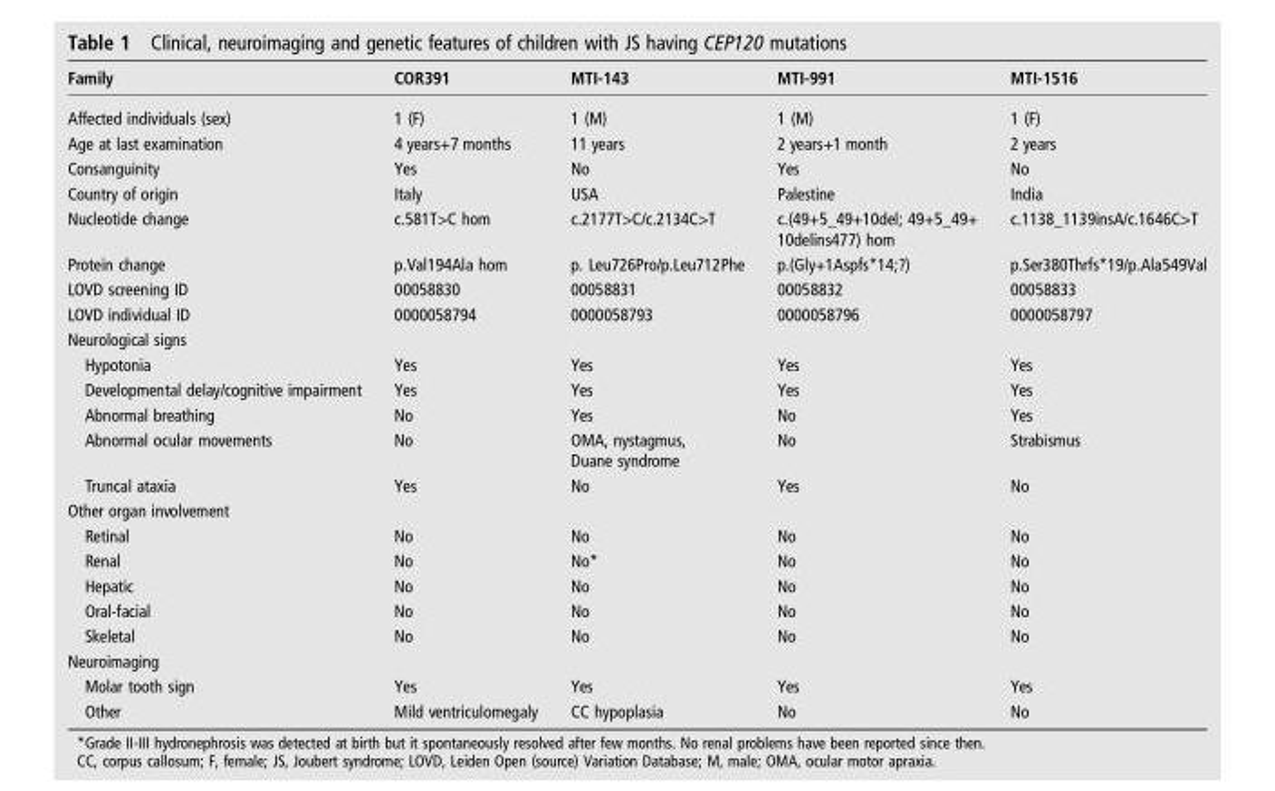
<table><thead><tr><td>Family</td><td>COR391</td><td>MTI-143</td><td>MTI-991</td><td>MTI-1516</td></tr></thead><tbody><tr><td>Affected individuals (sex)</td><td>1 (F)</td><td>1 (M)</td><td>1 (M)</td><td>1 (F)</td></tr><tr><td>Age at last examination</td><td>4 years+7 months</td><td>11 years</td><td>2 years+1 month</td><td>2 years</td></tr><tr><td>Consanguinity</td><td>Yes</td><td>No</td><td>Yes</td><td>No</td></tr><tr><td>Country of origin</td><td>Italy</td><td>USA</td><td>Palestine</td><td>India</td></tr><tr><td>Nucleotide change</td><td>c.581T&gt;C hom</td><td>c.2177T&gt;C/c.2134C&gt;T</td><td>c.(49+5_49+10del; 49+5_49+ 10delins477) hom</td><td>c.1138_1139insA/c.1646C&gt;T</td></tr><tr><td>Protein change</td><td>p.Val194Ala hom</td><td>p. Leu726Pro/p.Leu712Phe</td><td>p.(Gly+1Aspfs*14;?)</td><td>p.Ser380Thrfs*19/p.Ala549Val</td></tr><tr><td>LOVD screening ID</td><td>00058830</td><td>00058831</td><td>00058832</td><td>00058833</td></tr><tr><td>LOVD individual ID</td><td>0000058794</td><td>0000058793</td><td>0000058796</td><td>0000058797</td></tr><tr><td colspan="5">Neurological signs</td></tr><tr><td>Hypotonia</td><td>Yes</td><td>Yes</td><td>Yes</td><td>Yes</td></tr><tr><td>Developmental delay/cognitive impairment</td><td>Yes</td><td>Yes</td><td>Yes</td><td>Yes</td></tr><tr><td>Abnormal breathing</td><td>No</td><td>Yes</td><td>No</td><td>Yes</td></tr><tr><td>Abnormal ocular movements</td><td>No</td><td>OMA, nystagmus, Duane syndrome</td><td>No</td><td>Strabismus</td></tr><tr><td>Truncal ataxia</td><td>Yes</td><td>No</td><td>Yes</td><td>No</td></tr><tr><td colspan="5">Other organ involvement</td></tr><tr><td>Retinal</td><td>No</td><td>No</td><td>No</td><td>No</td></tr><tr><td>Renal</td><td>No</td><td>No*</td><td>No</td><td>No</td></tr><tr><td>Hepatic</td><td>No</td><td>No</td><td>No</td><td>No</td></tr><tr><td>Oral-facial</td><td>No</td><td>No</td><td>No</td><td>No</td></tr><tr><td>Skeletal</td><td>No</td><td>No</td><td>No</td><td>No</td></tr><tr><td colspan="5">Neuroimaging</td></tr><tr><td>Molar tooth sign</td><td>Yes</td><td>Yes</td><td>Yes</td><td>Yes</td></tr><tr><td>Other</td><td>Mild ventriculomegaly</td><td>CC hypoplasia</td><td>No</td><td>No</td></tr></tbody></table>